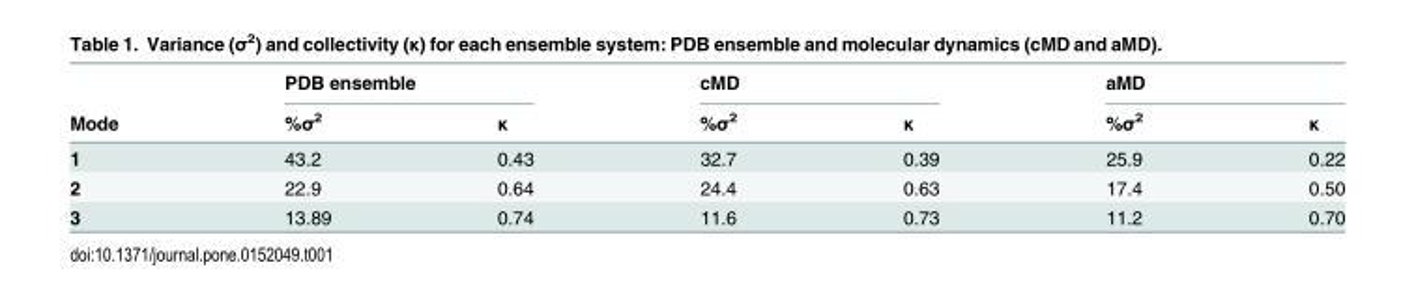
<table><thead><tr><td rowspan="2">Mode</td><td colspan="2">PDB ensemble</td><td colspan="2">cMD</td><td colspan="2">aMD</td></tr><tr><td>%σ<sup>2</sup></td><td>κ</td><td>%σ<sup>2</sup></td><td>κ</td><td>%σ<sup>2</sup></td><td>κ</td></tr></thead><tbody><tr><td>1</td><td>43.2</td><td>0.43</td><td>32.7</td><td>0.39</td><td>25.9</td><td>0.22</td></tr><tr><td>2</td><td>22.9</td><td>0.64</td><td>24.4</td><td>0.63</td><td>17.4</td><td>0.50</td></tr><tr><td>3</td><td>13.89</td><td>0.74</td><td>11.6</td><td>0.73</td><td>11.2</td><td>0.70</td></tr></tbody></table>